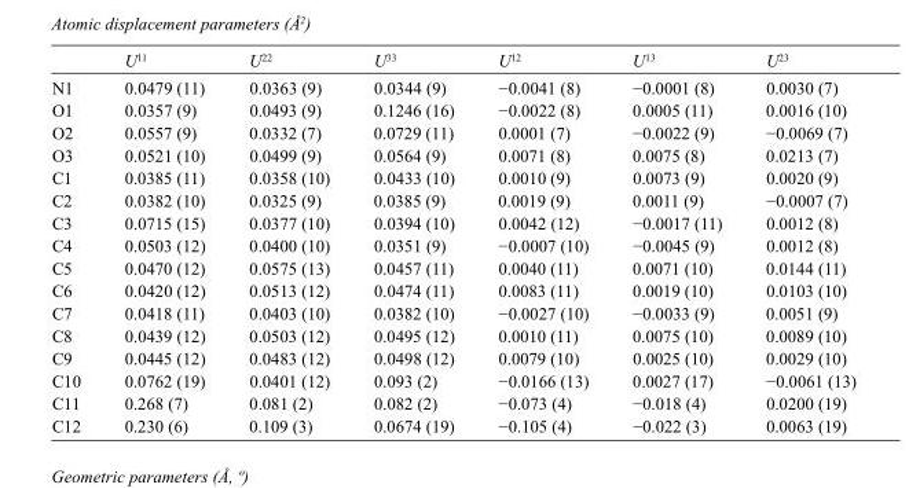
<table><thead><tr><td></td><td>U<sup>11</sup></td><td>U<sup>22</sup></td><td>U<sup>33</sup></td><td>U<sup>12</sup></td><td>U<sup>13</sup></td><td>U<sup>23</sup></td></tr></thead><tbody><tr><td>N1</td><td>0.0479 (11)</td><td>0.0363 (9)</td><td>0.0344 (9)</td><td>−0.0041 (8)</td><td>−0.0001 (8)</td><td>0.0030 (7)</td></tr><tr><td>O1</td><td>0.0357 (9)</td><td>0.0493 (9)</td><td>0.1246 (16)</td><td>−0.0022 (8)</td><td>0.0005 (11)</td><td>0.0016 (10)</td></tr><tr><td>O2</td><td>0.0557 (9)</td><td>0.0332 (7)</td><td>0.0729 (11)</td><td>0.0001 (7)</td><td>−0.0022 (9)</td><td>−0.0069 (7)</td></tr><tr><td>O3</td><td>0.0521 (10)</td><td>0.0499 (9)</td><td>0.0564 (9)</td><td>0.0071 (8)</td><td>0.0075 (8)</td><td>0.0213 (7)</td></tr><tr><td>C1</td><td>0.0385 (11)</td><td>0.0358 (10)</td><td>0.0433 (10)</td><td>0.0010 (9)</td><td>0.0073 (9)</td><td>0.0020 (9)</td></tr><tr><td>C2</td><td>0.0382 (10)</td><td>0.0325 (9)</td><td>0.0385 (9)</td><td>0.0019 (9)</td><td>0.0011 (9)</td><td>−0.0007 (7)</td></tr><tr><td>C3</td><td>0.0715 (15)</td><td>0.0377 (10)</td><td>0.0394 (10)</td><td>0.0042 (12)</td><td>−0.0017 (11)</td><td>0.0012 (8)</td></tr><tr><td>C4</td><td>0.0503 (12)</td><td>0.0400 (10)</td><td>0.0351 (9)</td><td>−0.0007 (10)</td><td>−0.0045 (9)</td><td>0.0012 (8)</td></tr><tr><td>C5</td><td>0.0470 (12)</td><td>0.0575 (13)</td><td>0.0457 (11)</td><td>0.0040 (11)</td><td>0.0071 (10)</td><td>0.0144 (11)</td></tr><tr><td>C6</td><td>0.0420 (12)</td><td>0.0513 (12)</td><td>0.0474 (11)</td><td>0.0083 (11)</td><td>0.0019 (10)</td><td>0.0103 (10)</td></tr><tr><td>C7</td><td>0.0418 (11)</td><td>0.0403 (10)</td><td>0.0382 (10)</td><td>−0.0027 (10)</td><td>−0.0033 (9)</td><td>0.0051 (9)</td></tr><tr><td>C8</td><td>0.0439 (12)</td><td>0.0503 (12)</td><td>0.0495 (12)</td><td>0.0010 (11)</td><td>0.0075 (10)</td><td>0.0089 (10)</td></tr><tr><td>C9</td><td>0.0445 (12)</td><td>0.0483 (12)</td><td>0.0498 (12)</td><td>0.0079 (10)</td><td>0.0025 (10)</td><td>0.0029 (10)</td></tr><tr><td>C10</td><td>0.0762 (19)</td><td>0.0401 (12)</td><td>0.093 (2)</td><td>−0.0166 (13)</td><td>0.0027 (17)</td><td>−0.0061 (13)</td></tr><tr><td>C11</td><td>0.268 (7)</td><td>0.081 (2)</td><td>0.082 (2)</td><td>−0.073 (4)</td><td>−0.018 (4)</td><td>0.0200 (19)</td></tr><tr><td>C12</td><td>0.230 (6)</td><td>0.109 (3)</td><td>0.0674 (19)</td><td>−0.105 (4)</td><td>−0.022 (3)</td><td>0.0063 (19)</td></tr></tbody></table>